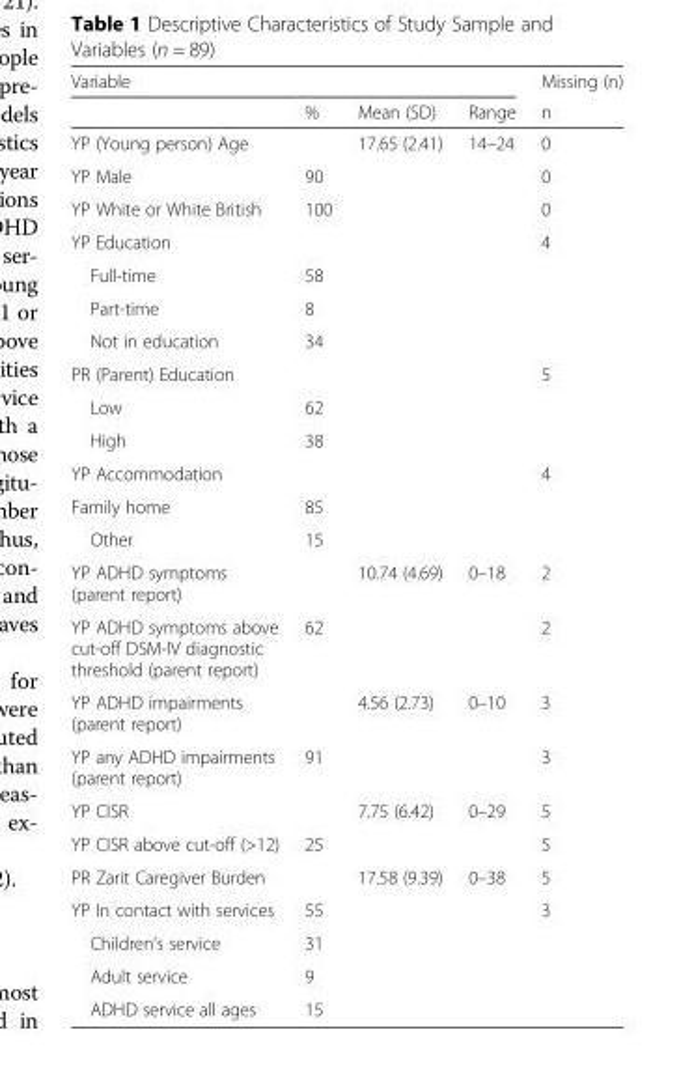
<table><thead><tr><td colspan="4">Variable</td><td rowspan="2">Missing (n) n</td></tr><tr><td></td><td>%</td><td>Mean (SD)</td><td>Range</td></tr></thead><tbody><tr><td>YP (Young person) Age</td><td></td><td>17.65 (2.41)</td><td>14–24</td><td>0</td></tr><tr><td>YP Male</td><td>90</td><td></td><td></td><td>0</td></tr><tr><td>YP White or White British</td><td>100</td><td></td><td></td><td>0</td></tr><tr><td>YP Education</td><td></td><td></td><td></td><td>4</td></tr><tr><td>Full-time</td><td>58</td><td></td><td></td><td></td></tr><tr><td>Part-time</td><td>8</td><td></td><td></td><td></td></tr><tr><td>Not in education</td><td>34</td><td></td><td></td><td></td></tr><tr><td>PR (Parent) Education</td><td></td><td></td><td></td><td>5</td></tr><tr><td>Low</td><td>62</td><td></td><td></td><td></td></tr><tr><td>High</td><td>38</td><td></td><td></td><td></td></tr><tr><td>YP Accommodation</td><td></td><td></td><td></td><td>4</td></tr><tr><td>Family home</td><td>85</td><td></td><td></td><td></td></tr><tr><td>Other</td><td>15</td><td></td><td></td><td></td></tr><tr><td>YP ADHD symptoms (parent report)</td><td></td><td>10.74 (4.69)</td><td>0–18</td><td>2</td></tr><tr><td>YP ADHD symptoms above cut-off DSM-IV diagnostic threshold (parent report)</td><td>62</td><td></td><td></td><td>2</td></tr><tr><td>YP ADHD impairments (parent report)</td><td></td><td>4.56 (2.73)</td><td>0–10</td><td>3</td></tr><tr><td>YP any ADHD impairments (parent report)</td><td>91</td><td></td><td></td><td>3</td></tr><tr><td>YP CISR</td><td></td><td>7.75 (6.42)</td><td>0–29</td><td>5</td></tr><tr><td>YP CISR above cut-off (&gt;12)</td><td>25</td><td></td><td></td><td>5</td></tr><tr><td>PR Zarit Caregiver Burden</td><td></td><td>17.58 (9.39)</td><td>0–38</td><td>5</td></tr><tr><td>YP In contact with services</td><td>55</td><td></td><td></td><td>3</td></tr><tr><td>Children’s service</td><td>31</td><td></td><td></td><td></td></tr><tr><td>Adult service</td><td>9</td><td></td><td></td><td></td></tr><tr><td>ADHD service all ages</td><td>15</td><td></td><td></td><td></td></tr></tbody></table>